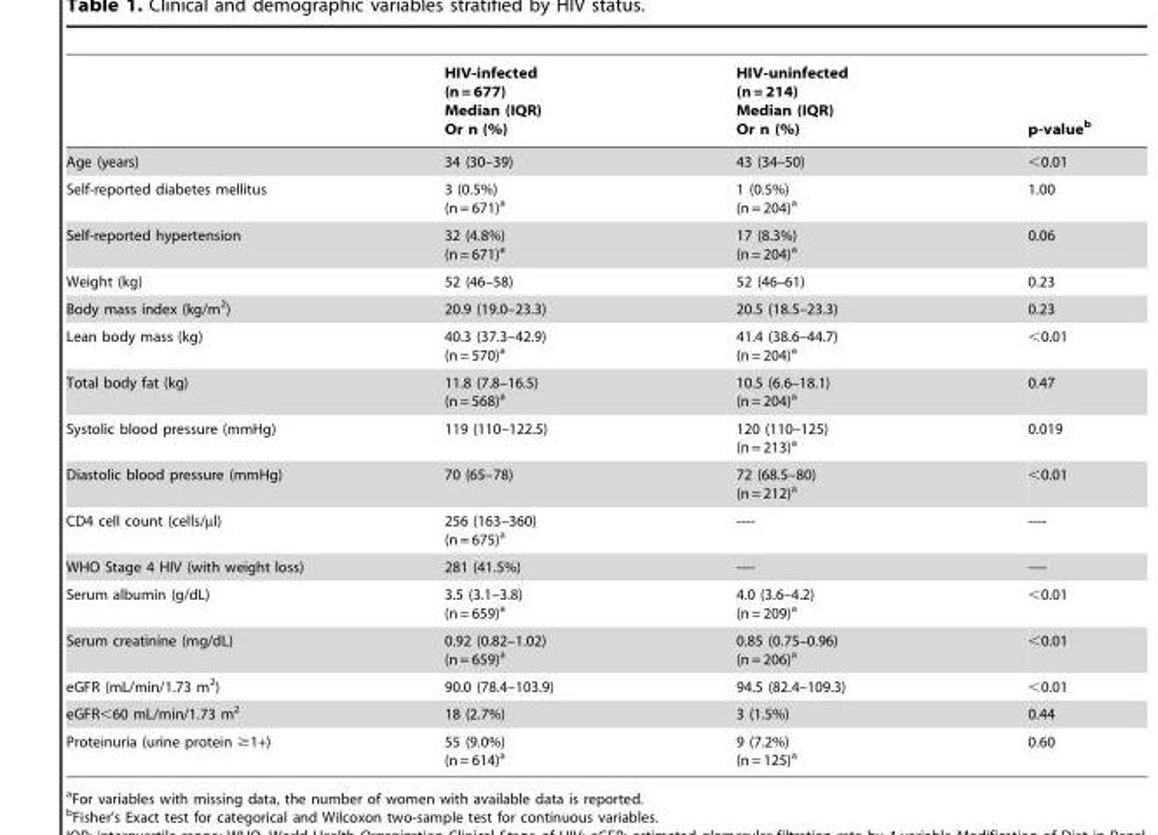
<table><thead><tr><td></td><td>HIV-infected (n = 677) Median (IQR) Or n (%)</td><td>HIV-uninfected (n = 214) Median (IQR) Or n (%)</td><td>p-value<sup>b</sup></td></tr></thead><tbody><tr><td>Age (years)</td><td>34 (30–39)</td><td>43 (34–50)</td><td>&lt;0.01</td></tr><tr><td>Self-reported diabetes mellitus</td><td>3 (0.5%) (n = 671)<sup>a</sup></td><td>1 (0.5%) (n = 204)<sup>a</sup></td><td>1.00</td></tr><tr><td>Self-reported hypertension</td><td>32 (4.8%) (n = 671)<sup>a</sup></td><td>17 (8.3%) (n = 204)<sup>a</sup></td><td>0.06</td></tr><tr><td>Weight (kg)</td><td>52 (46–58)</td><td>52 (46–61)</td><td>0.23</td></tr><tr><td>Body mass index (kg/m<sup>2</sup>)</td><td>20.9 (19.0–23.3)</td><td>20.5 (18.5–23.3)</td><td>0.23</td></tr><tr><td>Lean body mass (kg)</td><td>40.3 (37.3–42.9) (n = 570)<sup>a</sup></td><td>41.4 (38.6–44.7) (n = 204)<sup>a</sup></td><td>&lt;0.01</td></tr><tr><td>Total body fat (kg)</td><td>11.8 (7.8–16.5) (n = 568)<sup>a</sup></td><td>10.5 (6.6–18.1) (n = 204)<sup>a</sup></td><td>0.47</td></tr><tr><td>Systolic blood pressure (mmHg)</td><td>119 (110–122.5)</td><td>120 (110–125) (n = 213)<sup>a</sup></td><td>0.019</td></tr><tr><td>Diastolic blood pressure (mmHg)</td><td>70 (65–78)</td><td>72 (68.5–80) (n = 212)<sup>a</sup></td><td>&lt;0.01</td></tr><tr><td>CD4 cell count (cells/µl)</td><td>256 (163–360) (n = 675)<sup>a</sup></td><td>----</td><td>----</td></tr><tr><td>WHO Stage 4 HIV (with weight loss)</td><td>281 (41.5%)</td><td>----</td><td>----</td></tr><tr><td>Serum albumin (g/dL)</td><td>3.5 (3.1–3.8) (n = 659)<sup>a</sup></td><td>4.0 (3.6–4.2) (n = 209)<sup>a</sup></td><td>&lt;0.01</td></tr><tr><td>Serum creatinine (mg/dL)</td><td>0.92 (0.82–1.02) (n = 659)<sup>a</sup></td><td>0.85 (0.75–0.96) (n = 206)<sup>a</sup></td><td>&lt;0.01</td></tr><tr><td>eGFR (mL/min/1.73 m<sup>2</sup>)</td><td>90.0 (78.4–103.9)</td><td>94.5 (82.4–109.3)</td><td>&lt;0.01</td></tr><tr><td>eGFR&lt;60 mL/min/1.73 m<sup>2</sup></td><td>18 (2.7%)</td><td>3 (1.5%)</td><td>0.44</td></tr><tr><td>Proteinuria (urine protein ≥1+)</td><td>55 (9.0%) (n = 614)<sup>a</sup></td><td>9 (7.2%) (n = 125)<sup>a</sup></td><td>0.60</td></tr></tbody></table>